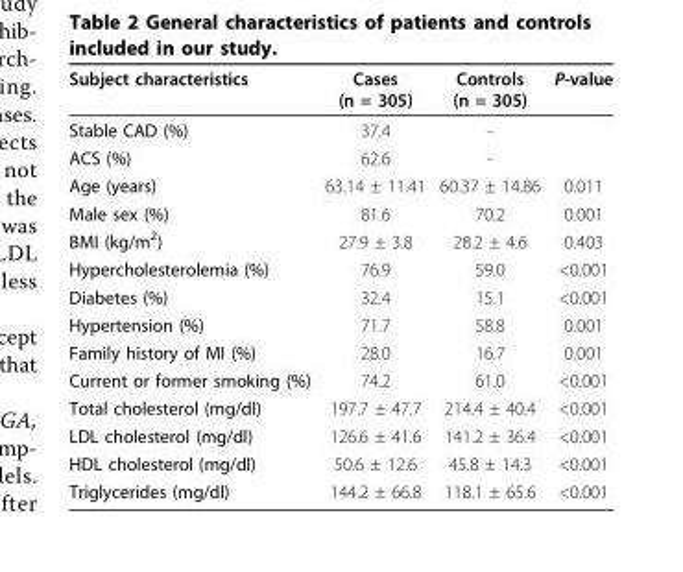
<table><thead><tr><td>Subject characteristics</td><td>Cases (n = 305)</td><td>Controls (n = 305)</td><td>P-value</td></tr></thead><tbody><tr><td>Stable CAD (%)</td><td>37.4</td><td>-</td><td></td></tr><tr><td>ACS (%)</td><td>62.6</td><td>-</td><td></td></tr><tr><td>Age (years)</td><td>63.14 ± 11.41</td><td>60.37 ± 14.86</td><td>0.011</td></tr><tr><td>Male sex (%)</td><td>81.6</td><td>70.2</td><td>0.001</td></tr><tr><td>BMI (kg/m<sup>2</sup>)</td><td>27.9 ± 3.8</td><td>28.2 ± 4.6</td><td>0.403</td></tr><tr><td>Hypercholesterolemia (%)</td><td>76.9</td><td>59.0</td><td>&lt;0.001</td></tr><tr><td>Diabetes (%)</td><td>32.4</td><td>15.1</td><td>&lt;0.001</td></tr><tr><td>Hypertension (%)</td><td>71.7</td><td>58.8</td><td>0.001</td></tr><tr><td>Family history of MI (%)</td><td>28.0</td><td>16.7</td><td>0.001</td></tr><tr><td>Current or former smoking (%)</td><td>74.2</td><td>61.0</td><td>&lt;0.001</td></tr><tr><td>Total cholesterol (mg/dl)</td><td>197.7 ± 47.7</td><td>214.4 ± 40.4</td><td>&lt;0.001</td></tr><tr><td>LDL cholesterol (mg/dl)</td><td>126.6 ± 41.6</td><td>141.2 ± 36.4</td><td>&lt;0.001</td></tr><tr><td>HDL cholesterol (mg/dl)</td><td>50.6 ± 12.6</td><td>45.8 ± 14.3</td><td>&lt;0.001</td></tr><tr><td>Triglycerides (mg/dl)</td><td>144.2 ± 66.8</td><td>118.1 ± 65.6</td><td>&lt;0.001</td></tr></tbody></table>